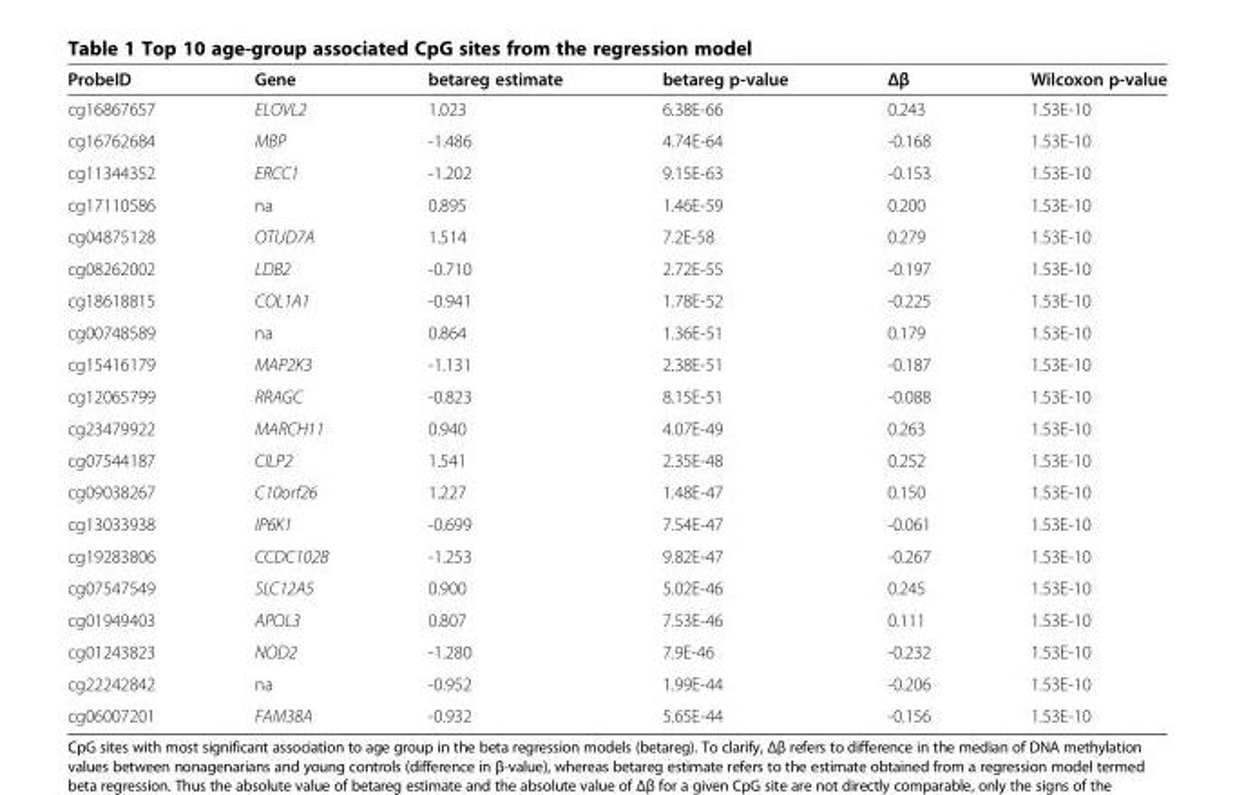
<table><thead><tr><td>ProbeID</td><td>Gene</td><td>betareg estimate</td><td>betareg p-value</td><td>Δβ</td><td>Wilcoxon p-value</td></tr></thead><tbody><tr><td>cg16867657</td><td>ELOVL2</td><td>1.023</td><td>6.38E-66</td><td>0.243</td><td>1.53E-10</td></tr><tr><td>cg16762684</td><td>MBP</td><td>-1.486</td><td>4.74E-64</td><td>-0.168</td><td>1.53E-10</td></tr><tr><td>cg11344352</td><td>ERCC1</td><td>-1.202</td><td>9.15E-63</td><td>-0.153</td><td>1.53E-10</td></tr><tr><td>cg17110586</td><td>na</td><td>0.895</td><td>1.46E-59</td><td>0.200</td><td>1.53E-10</td></tr><tr><td>cg04875128</td><td>OTUD7A</td><td>1.514</td><td>7.2E-58</td><td>0.279</td><td>1.53E-10</td></tr><tr><td>cg08262002</td><td>LDB2</td><td>-0.710</td><td>2.72E-55</td><td>-0.197</td><td>1.53E-10</td></tr><tr><td>cg18618815</td><td>COL1A1</td><td>-0.941</td><td>1.78E-52</td><td>-0.225</td><td>1.53E-10</td></tr><tr><td>cg00748589</td><td>na</td><td>0.864</td><td>1.36E-51</td><td>0.179</td><td>1.53E-10</td></tr><tr><td>cg15416179</td><td>MAP2K3</td><td>-1.131</td><td>2.38E-51</td><td>-0.187</td><td>1.53E-10</td></tr><tr><td>cg12065799</td><td>RRAGC</td><td>-0.823</td><td>8.15E-51</td><td>-0.088</td><td>1.53E-10</td></tr><tr><td>cg23479922</td><td>MARCH11</td><td>0.940</td><td>4.07E-49</td><td>0.263</td><td>1.53E-10</td></tr><tr><td>cg07544187</td><td>CILP2</td><td>1.541</td><td>2.35E-48</td><td>0.252</td><td>1.53E-10</td></tr><tr><td>cg09038267</td><td>C10orf26</td><td>1.227</td><td>1.48E-47</td><td>0.150</td><td>1.53E-10</td></tr><tr><td>cg13033938</td><td>IP6K1</td><td>-0.699</td><td>7.54E-47</td><td>-0.061</td><td>1.53E-10</td></tr><tr><td>cg19283806</td><td>CCDC102B</td><td>-1.253</td><td>9.82E-47</td><td>-0.267</td><td>1.53E-10</td></tr><tr><td>cg07547549</td><td>SLC12A5</td><td>0.900</td><td>5.02E-46</td><td>0.245</td><td>1.53E-10</td></tr><tr><td>cg01949403</td><td>APOL3</td><td>0.807</td><td>7.53E-46</td><td>0.111</td><td>1.53E-10</td></tr><tr><td>cg01243823</td><td>NOD2</td><td>-1.280</td><td>7.9E-46</td><td>-0.232</td><td>1.53E-10</td></tr><tr><td>cg22242842</td><td>na</td><td>-0.952</td><td>1.99E-44</td><td>-0.206</td><td>1.53E-10</td></tr><tr><td>cg06007201</td><td>FAM38A</td><td>-0.932</td><td>5.65E-44</td><td>-0.156</td><td>1.53E-10</td></tr></tbody></table>